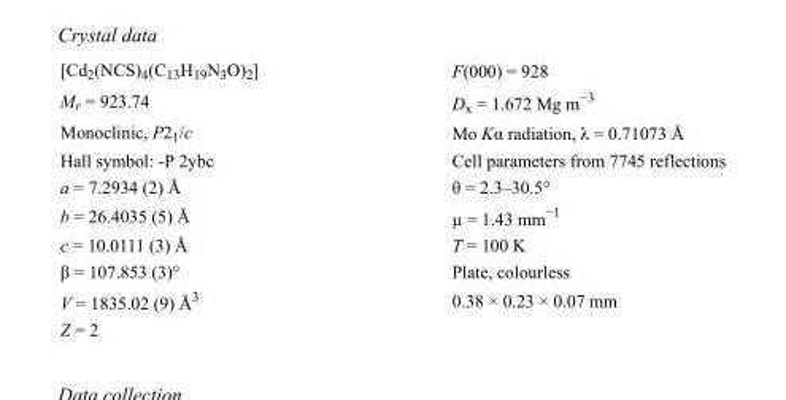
<table><tbody><tr><td>[Cd<sub>2</sub>(NCS)<sub>4</sub>(C<sub>13</sub>H<sub>19</sub>N<sub>3</sub>O)<sub>2</sub>]</td><td>F(000) = 928</td></tr><tr><td>M<sub>r</sub> = 923.74</td><td>D<sub>x</sub> = 1.672 Mg m<sup>−3</sup></td></tr><tr><td>Monoclinic, P2<sub>1</sub>/c</td><td>Mo Kα radiation, λ = 0.71073 Å</td></tr><tr><td>Hall symbol: -P 2ybc</td><td>Cell parameters from 7745 reflections</td></tr><tr><td>a = 7.2934 (2) Å</td><td>θ = 2.3–30.5°</td></tr><tr><td>b = 26.4035 (5) Å</td><td>µ = 1.43 mm<sup>−1</sup></td></tr><tr><td>c = 10.0111 (3) Å</td><td>T = 100 K</td></tr><tr><td>β = 107.853 (3)°</td><td>Plate, colourless</td></tr><tr><td>V = 1835.02 (9) Å<sup>3</sup></td><td>0.38 × 0.23 × 0.07 mm</td></tr><tr><td>Z = 2</td><td></td></tr></tbody></table>